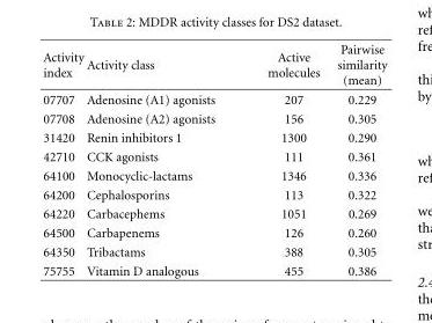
<table><thead><tr><td>Activity index</td><td>Activity class</td><td>Active molecules</td><td>Pairwise similarity (mean)</td></tr></thead><tbody><tr><td>07707</td><td>Adenosine (A1) agonists</td><td>207</td><td>0.229</td></tr><tr><td>07708</td><td>Adenosine (A2) agonists</td><td>156</td><td>0.305</td></tr><tr><td>31420</td><td>Renin inhibitors 1</td><td>1300</td><td>0.290</td></tr><tr><td>42710</td><td>CCK agonists</td><td>111</td><td>0.361</td></tr><tr><td>64100</td><td>Monocyclic-lactams</td><td>1346</td><td>0.336</td></tr><tr><td>64200</td><td>Cephalosporins</td><td>113</td><td>0.322</td></tr><tr><td>64220</td><td>Carbacephems</td><td>1051</td><td>0.269</td></tr><tr><td>64500</td><td>Carbapenems</td><td>126</td><td>0.260</td></tr><tr><td>64350</td><td>Tribactams</td><td>388</td><td>0.305</td></tr><tr><td>75755</td><td>Vitamin D analogous</td><td>455</td><td>0.386</td></tr></tbody></table>